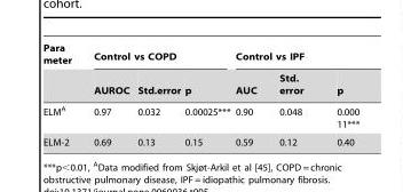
<table><thead><tr><td rowspan="2">Para meter</td><td colspan="3">Control vs COPD</td><td colspan="3">Control vs IPF</td></tr><tr><td>AUROC</td><td>Std.error</td><td>p</td><td>AUC</td><td>Std. error</td><td>p</td></tr></thead><tbody><tr><td>ELM<sup>A</sup></td><td>0.97</td><td>0.032</td><td>0.00025***</td><td>0.90</td><td>0.048</td><td>0.000 11***</td></tr><tr><td>ELM-2</td><td>0.69</td><td>0.13</td><td>0.15</td><td>0.59</td><td>0.12</td><td>0.40</td></tr></tbody></table>